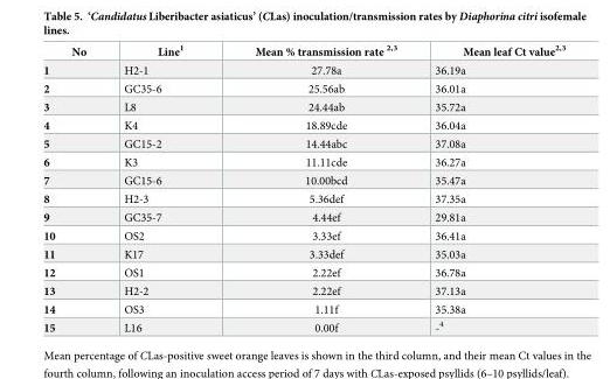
<table><thead><tr><td>No</td><td>Line<sup>1</sup></td><td>Mean % transmission rate <sup>2,3</sup></td><td>Mean leaf Ct value<sup>2,3</sup></td></tr></thead><tbody><tr><td>1</td><td>H2-1</td><td>27.78a</td><td>36.19a</td></tr><tr><td>2</td><td>GC35-6</td><td>25.56ab</td><td>36.01a</td></tr><tr><td>3</td><td>L8</td><td>24.44ab</td><td>35.72a</td></tr><tr><td>4</td><td>K4</td><td>18.89cde</td><td>36.04a</td></tr><tr><td>5</td><td>GC15-2</td><td>14.44abc</td><td>37.08a</td></tr><tr><td>6</td><td>K3</td><td>11.11cde</td><td>36.27a</td></tr><tr><td>7</td><td>GC15-6</td><td>10.00bcd</td><td>35.47a</td></tr><tr><td>8</td><td>H2-3</td><td>5.36def</td><td>37.35a</td></tr><tr><td>9</td><td>GC35-7</td><td>4.44ef</td><td>29.81a</td></tr><tr><td>10</td><td>OS2</td><td>3.33ef</td><td>36.41a</td></tr><tr><td>11</td><td>K17</td><td>3.33def</td><td>35.03a</td></tr><tr><td>12</td><td>OS1</td><td>2.22ef</td><td>36.78a</td></tr><tr><td>13</td><td>H2-2</td><td>2.22ef</td><td>37.13a</td></tr><tr><td>14</td><td>OS3</td><td>1.11f</td><td>35.38a</td></tr><tr><td>15</td><td>L16</td><td>0.00f</td><td>-<sup>4</sup></td></tr></tbody></table>